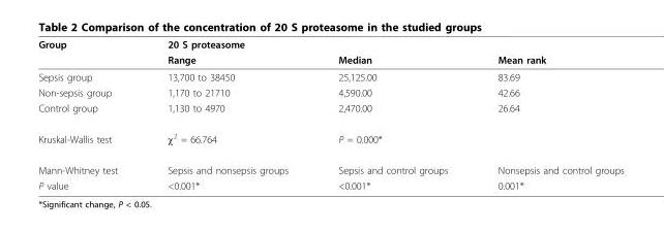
<table><thead><tr><td rowspan="2">Group</td><td colspan="3">20 S proteasome</td></tr><tr><td>Range</td><td>Median</td><td>Mean rank</td></tr></thead><tbody><tr><td>Sepsis group</td><td>13,700 to 38450</td><td>25,125.00</td><td>83.69</td></tr><tr><td>Non-sepsis group</td><td>1,170 to 21710</td><td>4,590.00</td><td>42.66</td></tr><tr><td>Control group</td><td>1,130 to 4970</td><td>2,470.00</td><td>26.64</td></tr><tr><td>Kruskal-Wallis test</td><td>χ<sup>2</sup> = 66.764</td><td>P = 0.000*</td><td></td></tr><tr><td>Mann-Whitney test</td><td>Sepsis and nonsepsis groups</td><td>Sepsis and control groups</td><td>Nonsepsis and control groups</td></tr><tr><td>P value</td><td>&lt;0.001*</td><td>&lt;0.001*</td><td>0.001*</td></tr></tbody></table>